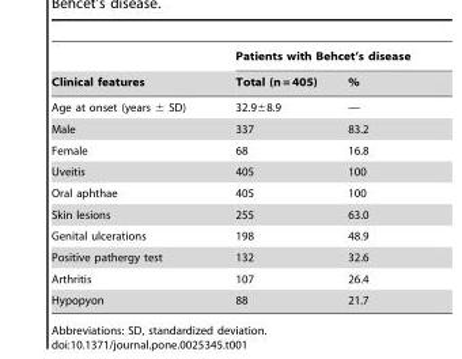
<table><thead><tr><td rowspan="2">Clinical features</td><td colspan="2">Patients with Behcet’s disease</td></tr><tr><td>Total (n = 405)</td><td>%</td></tr></thead><tbody><tr><td>Age at onset (years ± SD)</td><td>32.9±8.9</td><td>—</td></tr><tr><td>Male</td><td>337</td><td>83.2</td></tr><tr><td>Female</td><td>68</td><td>16.8</td></tr><tr><td>Uveitis</td><td>405</td><td>100</td></tr><tr><td>Oral aphthae</td><td>405</td><td>100</td></tr><tr><td>Skin lesions</td><td>255</td><td>63.0</td></tr><tr><td>Genital ulcerations</td><td>198</td><td>48.9</td></tr><tr><td>Positive pathergy test</td><td>132</td><td>32.6</td></tr><tr><td>Arthritis</td><td>107</td><td>26.4</td></tr><tr><td>Hypopyon</td><td>88</td><td>21.7</td></tr></tbody></table>